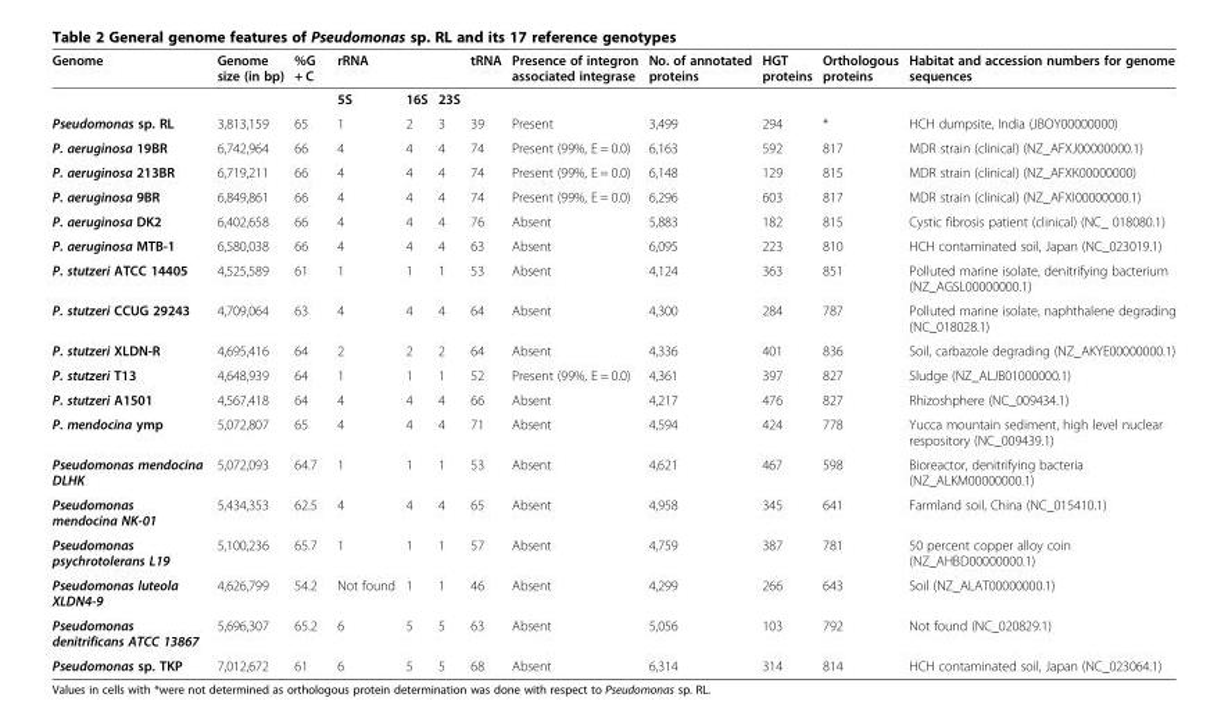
<table><thead><tr><td rowspan="2">Genome</td><td rowspan="2">Genome size (in bp)</td><td rowspan="2">%G + C</td><td colspan="3">rRNA</td><td rowspan="2">tRNA</td><td rowspan="2">Presence of integron associated integrase</td><td rowspan="2">No. of annotated proteins</td><td rowspan="2">HGT proteins</td><td rowspan="2">Orthologous proteins</td><td rowspan="2">Habitat and accession numbers for genome sequences</td></tr><tr><td>5S</td><td>16S</td><td>23S</td></tr></thead><tbody><tr><td>Pseudomonas sp. RL</td><td>3,813,159</td><td>65</td><td>1</td><td>2</td><td>3</td><td>39</td><td>Present</td><td>3,499</td><td>294</td><td>*</td><td>HCH dumpsite, India (JBOY00000000)</td></tr><tr><td>P. aeruginosa 19BR</td><td>6,742,964</td><td>66</td><td>4</td><td>4</td><td>4</td><td>74</td><td>Present (99%, E = 0.0)</td><td>6,163</td><td>592</td><td>817</td><td>MDR strain (clinical) (NZ_AFXJ00000000.1)</td></tr><tr><td>P. aeruginosa 213BR</td><td>6,719,211</td><td>66</td><td>4</td><td>4</td><td>4</td><td>74</td><td>Present (99%, E = 0.0)</td><td>6,148</td><td>129</td><td>815</td><td>MDR strain (clinical) (NZ_AFXK00000000)</td></tr><tr><td>P. aeruginosa 9BR</td><td>6,849,861</td><td>66</td><td>4</td><td>4</td><td>4</td><td>74</td><td>Present (99%, E = 0.0)</td><td>6,296</td><td>603</td><td>817</td><td>MDR strain (clinical) (NZ_AFXI00000000.1)</td></tr><tr><td>P. aeruginosa DK2</td><td>6,402,658</td><td>66</td><td>4</td><td>4</td><td>4</td><td>76</td><td>Absent</td><td>5,883</td><td>182</td><td>815</td><td>Cystic fibrosis patient (clinical) (NC_ 018080.1)</td></tr><tr><td>P. aeruginosa MTB-1</td><td>6,580,038</td><td>66</td><td>4</td><td>4</td><td>4</td><td>63</td><td>Absent</td><td>6,095</td><td>223</td><td>810</td><td>HCH contaminated soil, Japan (NC_023019.1)</td></tr><tr><td>P. stutzeri ATCC 14405</td><td>4,525,589</td><td>61</td><td>1</td><td>1</td><td>1</td><td>53</td><td>Absent</td><td>4,124</td><td>363</td><td>851</td><td>Polluted marine isolate, denitrifying bacterium (NZ_AGSL00000000.1)</td></tr><tr><td>P. stutzeri CCUG 29243</td><td>4,709,064</td><td>63</td><td>4</td><td>4</td><td>4</td><td>64</td><td>Absent</td><td>4,300</td><td>284</td><td>787</td><td>Polluted marine isolate, naphthalene degrading (NC_018028.1)</td></tr><tr><td>P. stutzeri XLDN-R</td><td>4,695,416</td><td>64</td><td>2</td><td>2</td><td>2</td><td>64</td><td>Absent</td><td>4,336</td><td>401</td><td>836</td><td>Soil, carbazole degrading (NZ_AKYE00000000.1)</td></tr><tr><td>P. stutzeri T13</td><td>4,648,939</td><td>64</td><td>1</td><td>1</td><td>1</td><td>52</td><td>Present (99%, E = 0.0)</td><td>4,361</td><td>397</td><td>827</td><td>Sludge (NZ_ALJB01000000.1)</td></tr><tr><td>P. stutzeri A1501</td><td>4,567,418</td><td>64</td><td>4</td><td>4</td><td>4</td><td>66</td><td>Absent</td><td>4,217</td><td>476</td><td>827</td><td>Rhizoshphere (NC_009434.1)</td></tr><tr><td>P. mendocina ymp</td><td>5,072,807</td><td>65</td><td>4</td><td>4</td><td>4</td><td>71</td><td>Absent</td><td>4,594</td><td>424</td><td>778</td><td>Yucca mountain sediment, high level nuclear respository (NC_009439.1)</td></tr><tr><td>Pseudomonas mendocina DLHK</td><td>5,072,093</td><td>64.7</td><td>1</td><td>1</td><td>1</td><td>53</td><td>Absent</td><td>4,621</td><td>467</td><td>598</td><td>Bioreactor, denitrifying bacteria (NZ_ALKM00000000.1)</td></tr><tr><td>Pseudomonas mendocina NK-01</td><td>5,434,353</td><td>62.5</td><td>4</td><td>4</td><td>4</td><td>65</td><td>Absent</td><td>4,958</td><td>345</td><td>641</td><td>Farmland soil, China (NC_015410.1)</td></tr><tr><td>Pseudomonas psychrotolerans L19</td><td>5,100,236</td><td>65.7</td><td>1</td><td>1</td><td>1</td><td>57</td><td>Absent</td><td>4,759</td><td>387</td><td>781</td><td>50 percent copper alloy coin (NZ_AHBD00000000.1)</td></tr><tr><td>Pseudomonas luteola XLDN4-9</td><td>4,626,799</td><td>54.2</td><td>Not found</td><td>1</td><td>1</td><td>46</td><td>Absent</td><td>4,299</td><td>266</td><td>643</td><td>Soil (NZ_ALAT00000000.1)</td></tr><tr><td>Pseudomonas denitrificans ATCC 13867</td><td>5,696,307</td><td>65.2</td><td>6</td><td>5</td><td>5</td><td>63</td><td>Absent</td><td>5,056</td><td>103</td><td>792</td><td>Not found (NC_020829.1)</td></tr><tr><td>Pseudomonas sp. TKP</td><td>7,012,672</td><td>61</td><td>6</td><td>5</td><td>5</td><td>68</td><td>Absent</td><td>6,314</td><td>314</td><td>814</td><td>HCH contaminated soil, Japan (NC_023064.1)</td></tr></tbody></table>